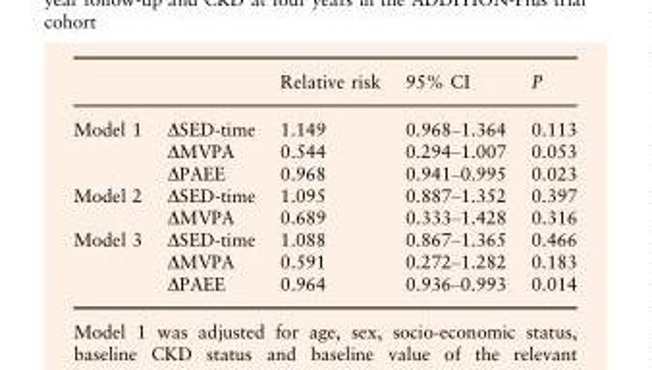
<table><thead><tr><td></td><td></td><td>Relative risk</td><td>95% CI</td><td>P</td></tr></thead><tbody><tr><td rowspan="3">Model 1</td><td>ΔSED-time</td><td>1.149</td><td>0.968–1.364</td><td>0.113</td></tr><tr><td>ΔMVPA</td><td>0.544</td><td>0.294–1.007</td><td>0.053</td></tr><tr><td>ΔPAEE</td><td>0.968</td><td>0.941–0.995</td><td>0.023</td></tr><tr><td rowspan="2">Model 2</td><td>ΔSED-time</td><td>1.095</td><td>0.887–1.352</td><td>0.397</td></tr><tr><td>ΔMVPA</td><td>0.689</td><td>0.333–1.428</td><td>0.316</td></tr><tr><td rowspan="3">Model 3</td><td>ΔSED-time</td><td>1.088</td><td>0.867–1.365</td><td>0.466</td></tr><tr><td>ΔMVPA</td><td>0.591</td><td>0.272–1.282</td><td>0.183</td></tr><tr><td>ΔPAEE</td><td>0.964</td><td>0.936–0.993</td><td>0.014</td></tr></tbody></table>